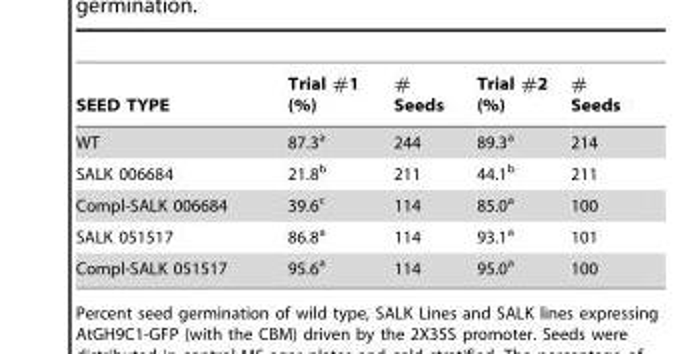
<table><thead><tr><td>SEED TYPE</td><td>Trial #1 (%)</td><td># Seeds</td><td>Trial #2 (%)</td><td># Seeds</td></tr></thead><tbody><tr><td>WT</td><td>87.3<sup>a</sup></td><td>244</td><td>89.3<sup>a</sup></td><td>214</td></tr><tr><td>SALK 006684</td><td>21.8<sup>b</sup></td><td>211</td><td>44.1<sup>b</sup></td><td>211</td></tr><tr><td>Compl-SALK 006684</td><td>39.6<sup>c</sup></td><td>114</td><td>85.0<sup>a</sup></td><td>100</td></tr><tr><td>SALK 051517</td><td>86.8<sup>a</sup></td><td>114</td><td>93.1<sup>a</sup></td><td>101</td></tr><tr><td>Compl-SALK 051517</td><td>95.6<sup>a</sup></td><td>114</td><td>95.0<sup>a</sup></td><td>100</td></tr></tbody></table>